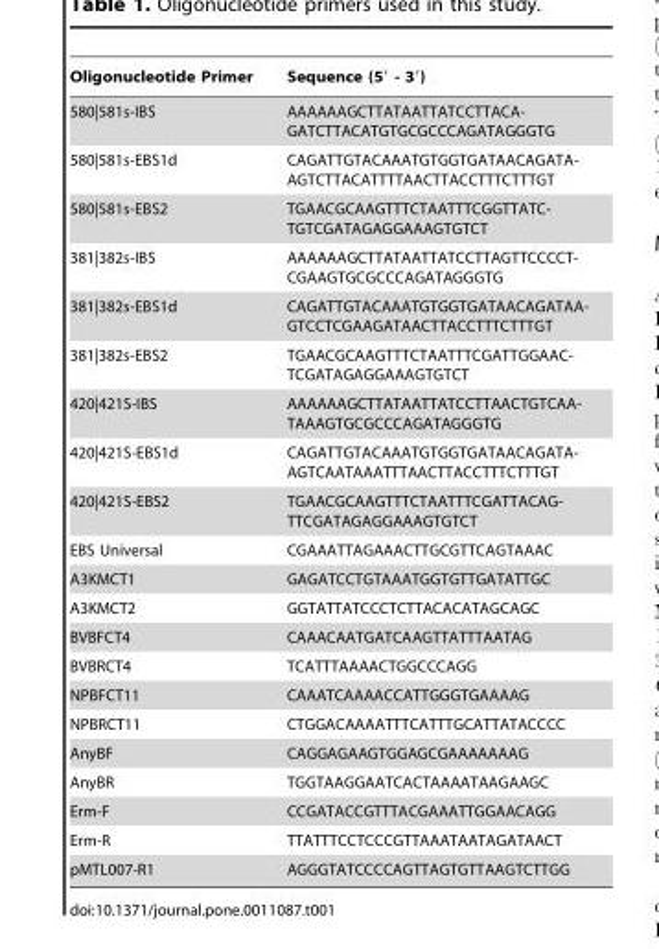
<table><thead><tr><td>Oligonucleotide Primer</td><td>Sequence (5′ - 3′)</td></tr></thead><tbody><tr><td>580|581s-IBS</td><td>AAAAAAGCTTATAATTATCCTTACA- GATCTTACATGTGCGCCCAGATAGGGTG</td></tr><tr><td>580|581s-EBS1d</td><td>CAGATTGTACAAATGTGGTGATAACAGATA- AGTCTTACATTTTAACTTACCTTTCTTTGT</td></tr><tr><td>580|581s-EBS2</td><td>TGAACGCAAGTTTCTAATTTCGGTTATC- TGTCGATAGAGGAAAGTGTCT</td></tr><tr><td>381|382s-IBS</td><td>AAAAAAGCTTATAATTATCCTTAGTTCCCCT- CGAAGTGCGCCCAGATAGGGTG</td></tr><tr><td>381|382s-EBS1d</td><td>CAGATTGTACAAATGTGGTGATAACAGATAA- GTCCTCGAAGATAACTTACCTTTCTTTGT</td></tr><tr><td>381|382s-EBS2</td><td>TGAACGCAAGTTTCTAATTTCGATTGGAAC- TCGATAGAGGAAAGTGTCT</td></tr><tr><td>420|421S-IBS</td><td>AAAAAAGCTTATAATTATCCTTAACTGTCAA- TAAAGTGCGCCCAGATAGGGTG</td></tr><tr><td>420|421S-EBS1d</td><td>CAGATTGTACAAATGTGGTGATAACAGATA- AGTCAATAAATTTAACTTACCTTTCTTTGT</td></tr><tr><td>420|421S-EBS2</td><td>TGAACGCAAGTTTCTAATTTCGATTACAG- TTCGATAGAGGAAAGTGTCT</td></tr><tr><td>EBS Universal</td><td>CGAAATTAGAAACTTGCGTTCAGTAAAC</td></tr><tr><td>A3KMCT1</td><td>GAGATCCTGTAAATGGTGTTGATATTGC</td></tr><tr><td>A3KMCT2</td><td>GGTATTATCCCTCTTACACATAGCAGC</td></tr><tr><td>BVBFCT4</td><td>CAAACAATGATCAAGTTATTTAATAG</td></tr><tr><td>BVBRCT4</td><td>TCATTTAAAACTGGCCCAGG</td></tr><tr><td>NPBFCT11</td><td>CAAATCAAAACCATTGGGTGAAAAG</td></tr><tr><td>NPBRCT11</td><td>CTGGACAAAATTTCATTTGCATTATACCCC</td></tr><tr><td>AnyBF</td><td>CAGGAGAAGTGGAGCGAAAAAAAG</td></tr><tr><td>AnyBR</td><td>TGGTAAGGAATCACTAAAATAAGAAGC</td></tr><tr><td>Erm-F</td><td>CCGATACCGTTTACGAAATTGGAACAGG</td></tr><tr><td>Erm-R</td><td>TTATTTCCTCCCGTTAAATAATAGATAACT</td></tr><tr><td>pMTL007-R1</td><td>AGGGTATCCCCAGTTAGTGTTAAGTCTTGG</td></tr></tbody></table>